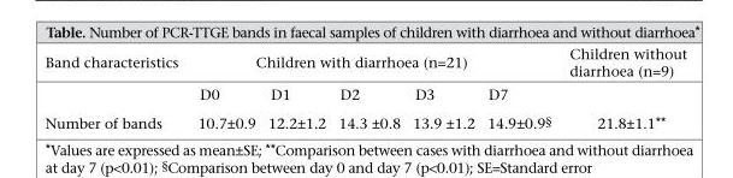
<table><thead><tr><td rowspan="2">Band characteristics</td><td colspan="5">Children with diarrhoea (n=21)</td><td rowspan="2">Children without diarrhoea (n=9)</td></tr><tr><td>D0</td><td>D1</td><td>D2</td><td>D3</td><td>D7</td></tr></thead><tbody><tr><td>Number of bands</td><td>10.7±0.9</td><td>12.2±1.2</td><td>14.3 ±0.8</td><td>13.9 ±1.2</td><td>14.9±0.9§</td><td>21.8±1.1**</td></tr></tbody></table>